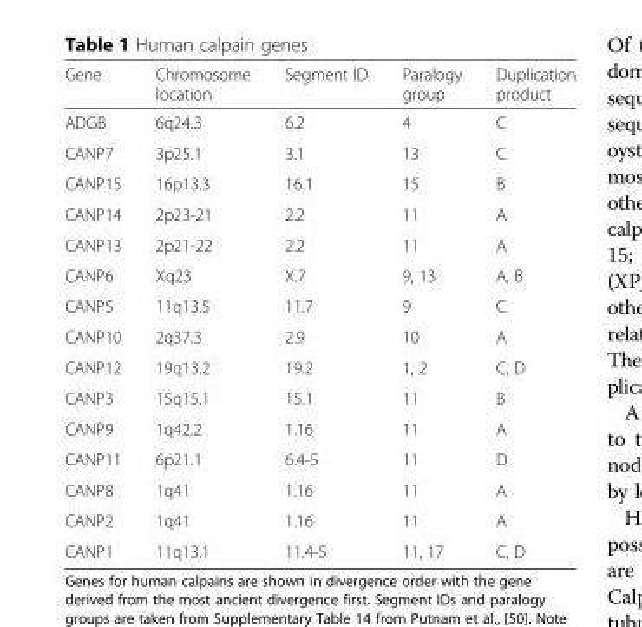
<table><thead><tr><td>Gene</td><td>Chromosome location</td><td>Segment ID</td><td>Paralogy group</td><td>Duplication product</td></tr></thead><tbody><tr><td>ADGB</td><td>6q24.3</td><td>6.2</td><td>4</td><td>C</td></tr><tr><td>CANP7</td><td>3p25.1</td><td>3.1</td><td>13</td><td>C</td></tr><tr><td>CANP15</td><td>16p13.3</td><td>16.1</td><td>15</td><td>B</td></tr><tr><td>CANP14</td><td>2p23-21</td><td>2.2</td><td>11</td><td>A</td></tr><tr><td>CANP13</td><td>2p21-22</td><td>2.2</td><td>11</td><td>A</td></tr><tr><td>CANP6</td><td>Xq23</td><td>X.7</td><td>9, 13</td><td>A, B</td></tr><tr><td>CANP5</td><td>11q13.5</td><td>11.7</td><td>9</td><td>C</td></tr><tr><td>CANP10</td><td>2q37.3</td><td>2.9</td><td>10</td><td>A</td></tr><tr><td>CANP12</td><td>19q13.2</td><td>19.2</td><td>1, 2</td><td>C, D</td></tr><tr><td>CANP3</td><td>15q15.1</td><td>15.1</td><td>11</td><td>B</td></tr><tr><td>CANP9</td><td>1q42.2</td><td>1.16</td><td>11</td><td>A</td></tr><tr><td>CANP11</td><td>6p21.1</td><td>6.4-5</td><td>11</td><td>D</td></tr><tr><td>CANP8</td><td>1q41</td><td>1.16</td><td>11</td><td>A</td></tr><tr><td>CANP2</td><td>1q41</td><td>1.16</td><td>11</td><td>A</td></tr><tr><td>CANP1</td><td>11q13.1</td><td>11.4-5</td><td>11, 17</td><td>C, D</td></tr></tbody></table>